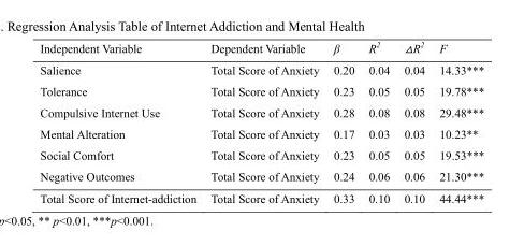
<table><thead><tr><td>Independent Variable</td><td>Dependent Variable</td><td>β</td><td>R<sup>2</sup></td><td>△R2</td><td>F</td></tr></thead><tbody><tr><td>Salience</td><td>Total Score of Anxiety</td><td>0.20</td><td>0.04</td><td>0.04</td><td>14.33***</td></tr><tr><td>Tolerance</td><td>Total Score of Anxiety</td><td>0.23</td><td>0.05</td><td>0.05</td><td>19.78***</td></tr><tr><td>Compulsive Internet Use</td><td>Total Score of Anxiety</td><td>0.28</td><td>0.08</td><td>0.08</td><td>29.48***</td></tr><tr><td>Mental Alteration</td><td>Total Score of Anxiety</td><td>0.17</td><td>0.03</td><td>0.03</td><td>10.23**</td></tr><tr><td>Social Comfort</td><td>Total Score of Anxiety</td><td>0.23</td><td>0.05</td><td>0.05</td><td>19.53***</td></tr><tr><td>Negative Outcomes</td><td>Total Score of Anxiety</td><td>0.24</td><td>0.06</td><td>0.06</td><td>21.30***</td></tr><tr><td>Total Score of Internet-addiction</td><td>Total Score of Anxiety</td><td>0.33</td><td>0.10</td><td>0.10</td><td>44.44***</td></tr></tbody></table>